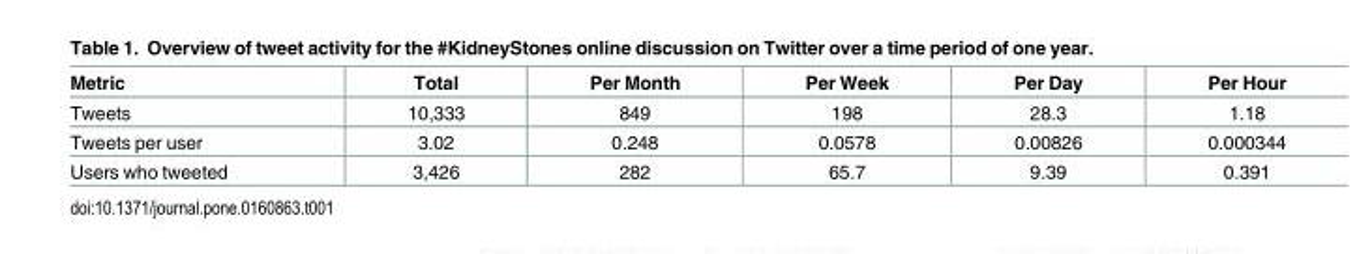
<table><thead><tr><td>Metric</td><td>Total</td><td>Per Month</td><td>Per Week</td><td>Per Day</td><td>Per Hour</td></tr></thead><tbody><tr><td>Tweets</td><td>10,333</td><td>849</td><td>198</td><td>28.3</td><td>1.18</td></tr><tr><td>Tweets per user</td><td>3.02</td><td>0.248</td><td>0.0578</td><td>0.00826</td><td>0.000344</td></tr><tr><td>Users who tweeted</td><td>3,426</td><td>282</td><td>65.7</td><td>9.39</td><td>0.391</td></tr></tbody></table>